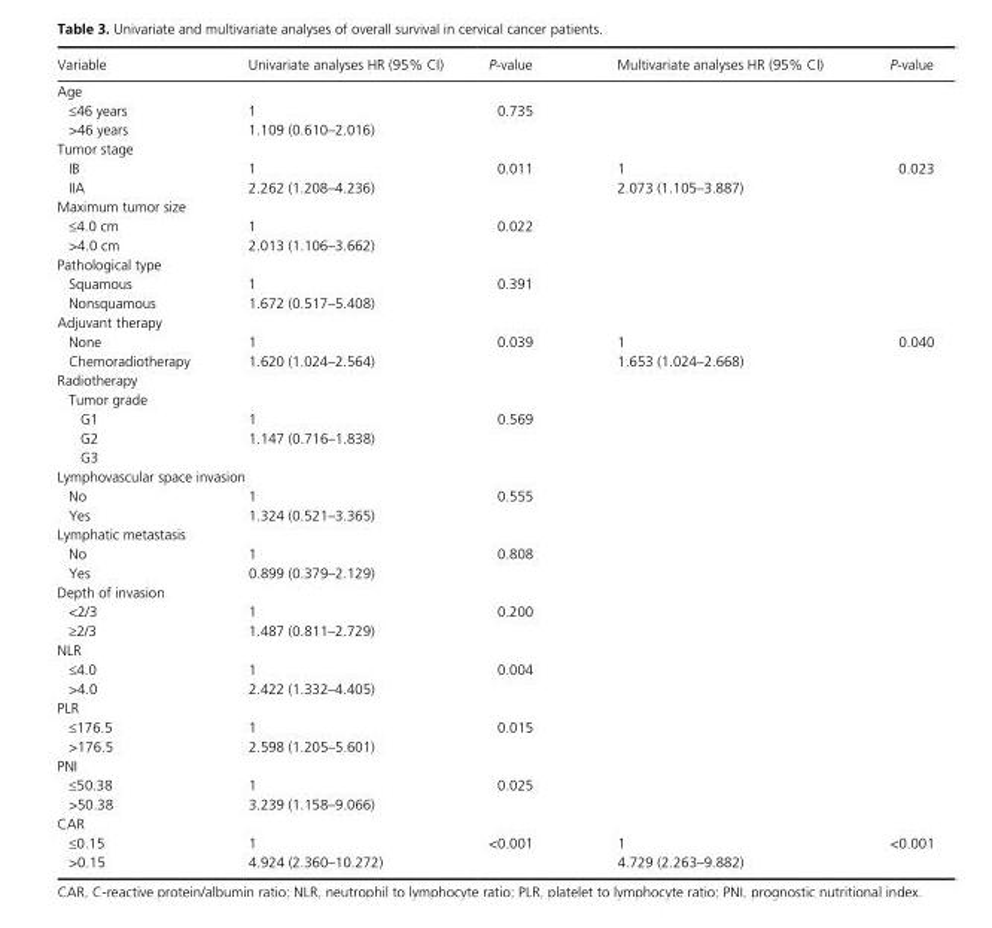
<table><thead><tr><td>Variable</td><td>Univariate analyses HR (95% CI)</td><td>P- value</td><td>Multivariate analyses HR (95% CI)</td><td>P- value</td></tr></thead><tbody><tr><td colspan="5">Age</td></tr><tr><td>≤46 years</td><td>1</td><td>0.735</td><td></td><td></td></tr><tr><td>&gt;46 years</td><td>1.109 (0.610–2.016)</td><td></td><td></td><td></td></tr><tr><td colspan="5">Tumor stage</td></tr><tr><td>IB</td><td>1</td><td>0.011</td><td>1</td><td>0.023</td></tr><tr><td>IIA</td><td>2.262 (1.208–4.236)</td><td></td><td>2.073 (1.105–3.887)</td><td></td></tr><tr><td colspan="5">Maximum tumor size</td></tr><tr><td>≤4.0 cm</td><td>1</td><td>0.022</td><td></td><td></td></tr><tr><td>&gt;4.0 cm</td><td>2.013 (1.106–3.662)</td><td></td><td></td><td></td></tr><tr><td colspan="5">Pathological type</td></tr><tr><td>Squamous</td><td>1</td><td>0.391</td><td></td><td></td></tr><tr><td>Nonsquamous</td><td>1.672 (0.517–5.408)</td><td></td><td></td><td></td></tr><tr><td colspan="5">Adjuvant therapy</td></tr><tr><td>None</td><td>1</td><td>0.039</td><td>1</td><td>0.040</td></tr><tr><td>Chemoradiotherapy</td><td>1.620 (1.024–2.564)</td><td></td><td>1.653 (1.024–2.668)</td><td></td></tr><tr><td colspan="5">Radiotherapy</td></tr><tr><td colspan="5">Tumor grade</td></tr><tr><td>G1</td><td>1</td><td>0.569</td><td></td><td></td></tr><tr><td>G2</td><td>1.147 (0.716–1.838)</td><td></td><td></td><td></td></tr><tr><td colspan="5">G3</td></tr><tr><td colspan="5">Lymphovascular space invasion</td></tr><tr><td>No</td><td>1</td><td>0.555</td><td></td><td></td></tr><tr><td>Yes</td><td>1.324 (0.521–3.365)</td><td></td><td></td><td></td></tr><tr><td colspan="5">Lymphatic metastasis</td></tr><tr><td>No</td><td>1</td><td>0.808</td><td></td><td></td></tr><tr><td>Yes</td><td>0.899 (0.379–2.129)</td><td></td><td></td><td></td></tr><tr><td colspan="5">Depth of invasion</td></tr><tr><td>&lt;2/3</td><td>1</td><td>0.200</td><td></td><td></td></tr><tr><td>≥2/3</td><td>1.487 (0.811–2.729)</td><td></td><td></td><td></td></tr><tr><td colspan="5">NLR</td></tr><tr><td>≤4.0</td><td>1</td><td>0.004</td><td></td><td></td></tr><tr><td>&gt;4.0</td><td>2.422 (1.332–4.405)</td><td></td><td></td><td></td></tr><tr><td colspan="5">PLR</td></tr><tr><td>≤176.5</td><td>1</td><td>0.015</td><td></td><td></td></tr><tr><td>&gt;176.5</td><td>2.598 (1.205–5.601)</td><td></td><td></td><td></td></tr><tr><td colspan="5">PNI</td></tr><tr><td>≤50.38</td><td>1</td><td>0.025</td><td></td><td></td></tr><tr><td>&gt;50.38</td><td>3.239 (1.158–9.066)</td><td></td><td></td><td></td></tr><tr><td colspan="5">CAR</td></tr><tr><td>≤0.15</td><td>1</td><td>&lt;0.001</td><td>1</td><td>&lt;0.001</td></tr><tr><td>&gt;0.15</td><td>4.924 (2.360–10.272)</td><td></td><td>4.729 (2.263–9.882)</td><td></td></tr></tbody></table>